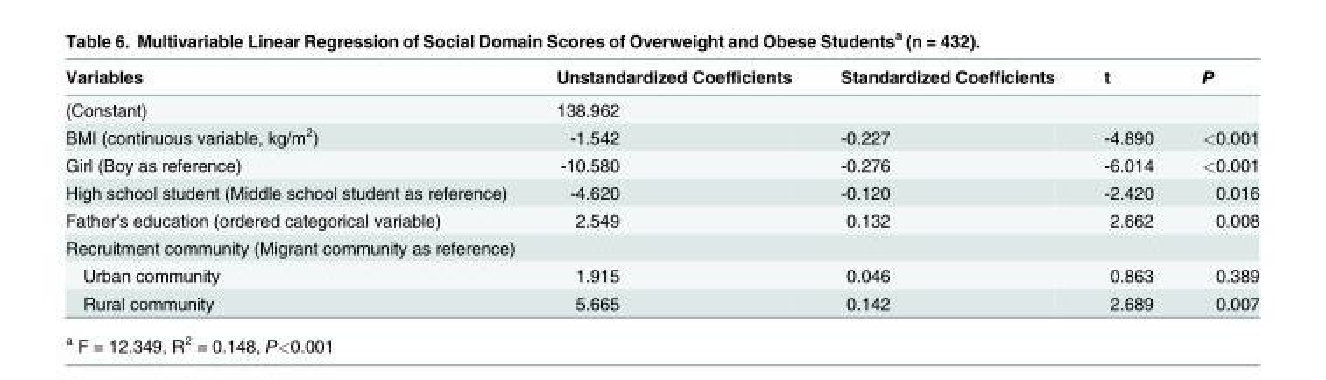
<table><thead><tr><td>Variables</td><td>Unstandardized Coefficients</td><td>Standardized Coefficients</td><td>t</td><td>P</td></tr></thead><tbody><tr><td>(Constant)</td><td>138.962</td><td></td><td></td><td></td></tr><tr><td>BMI (continuous variable, kg/m<sup>2</sup>)</td><td>-1.542</td><td>-0.227</td><td>-4.890</td><td>&lt;0.001</td></tr><tr><td>Girl (Boy as reference)</td><td>-10.580</td><td>-0.276</td><td>-6.014</td><td>&lt;0.001</td></tr><tr><td>High school student (Middle school student as reference)</td><td>-4.620</td><td>-0.120</td><td>-2.420</td><td>0.016</td></tr><tr><td>Father&#x27;s education (ordered categorical variable)</td><td>2.549</td><td>0.132</td><td>2.662</td><td>0.008</td></tr><tr><td colspan="5">Recruitment community (Migrant community as reference)</td></tr><tr><td>Urban community</td><td>1.915</td><td>0.046</td><td>0.863</td><td>0.389</td></tr><tr><td>Rural community</td><td>5.665</td><td>0.142</td><td>2.689</td><td>0.007</td></tr></tbody></table>